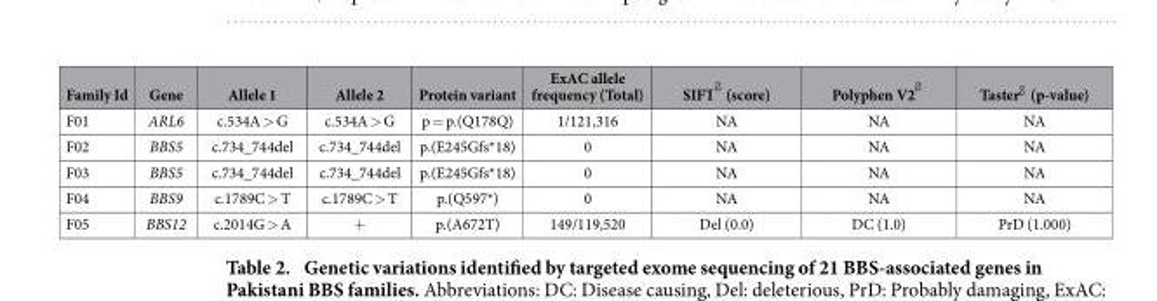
<table><thead><tr><td>Family Id</td><td>Gene</td><td>Allele 1</td><td>Allele 2</td><td>Protein variant</td><td>ExAC allele frequency (Total)</td><td>SIFT (score)</td><td>Polyphen V2</td><td>Taster (p-value)</td></tr></thead><tbody><tr><td>F01</td><td>ARL6</td><td>c.534A &gt; G</td><td>c.534A &gt; G</td><td>p = p.(Q178Q)</td><td>1/121,316</td><td>NA</td><td>NA</td><td>NA</td></tr><tr><td>F02</td><td>BBS5</td><td>c.734_744del</td><td>c.734_744del</td><td>p.(E245Gfs*18)</td><td>0</td><td>NA</td><td>NA</td><td>NA</td></tr><tr><td>F03</td><td>BBS5</td><td>c.734_744del</td><td>c.734_744del</td><td>p.(E245Gfs*18)</td><td>0</td><td>NA</td><td>NA</td><td>NA</td></tr><tr><td>F04</td><td>BBS9</td><td>c.1789C &gt; T</td><td>c.1789C &gt; T</td><td>p.(Q597*)</td><td>0</td><td>NA</td><td>NA</td><td>NA</td></tr><tr><td>F05</td><td>BBS12</td><td>c.2014G &gt; A</td><td>+</td><td>p.(A672T)</td><td>149/119,520</td><td>Del (0.0)</td><td>DC (1.0)</td><td>PrD (1.000)</td></tr></tbody></table>